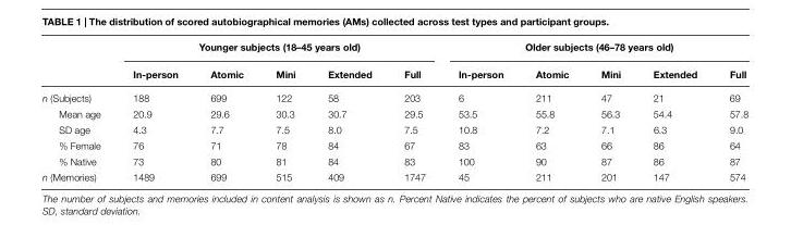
<table><thead><tr><td rowspan="2"></td><td colspan="5">Younger subjects (18–45 years old)</td><td colspan="5">Older subjects (46–78 years old)</td></tr><tr><td>In-person</td><td>Atomic</td><td>Mini</td><td>Extended</td><td>Full</td><td>In-person</td><td>Atomic</td><td>Mini</td><td>Extended</td><td>Full</td></tr></thead><tbody><tr><td>n (Subjects)</td><td>188</td><td>699</td><td>122</td><td>58</td><td>203</td><td>6</td><td>211</td><td>47</td><td>21</td><td>69</td></tr><tr><td>Mean age</td><td>20.9</td><td>29.6</td><td>30.3</td><td>30.7</td><td>29.5</td><td>53.5</td><td>55.8</td><td>56.3</td><td>54.4</td><td>57.8</td></tr><tr><td>SD age</td><td>4.3</td><td>7.7</td><td>7.5</td><td>8.0</td><td>7.5</td><td>10.8</td><td>7.2</td><td>7.1</td><td>6.3</td><td>9.0</td></tr><tr><td>% Female</td><td>76</td><td>71</td><td>78</td><td>84</td><td>67</td><td>83</td><td>63</td><td>66</td><td>86</td><td>64</td></tr><tr><td>% Native</td><td>73</td><td>80</td><td>81</td><td>84</td><td>83</td><td>100</td><td>90</td><td>87</td><td>86</td><td>87</td></tr><tr><td>n (Memories)</td><td>1489</td><td>699</td><td>515</td><td>409</td><td>1747</td><td>45</td><td>211</td><td>201</td><td>147</td><td>574</td></tr></tbody></table>